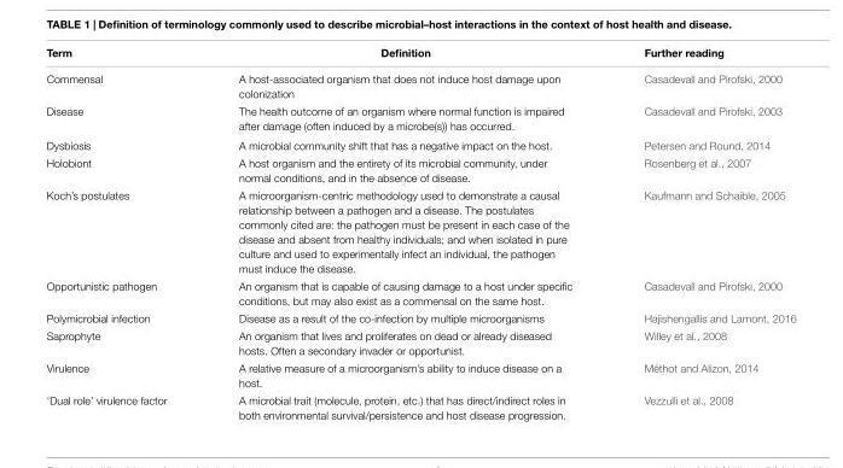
<table><thead><tr><td>Term</td><td>Definition</td><td>Further reading</td></tr></thead><tbody><tr><td>Commensal</td><td>A host-associated organism that does not induce host damage upon colonization</td><td>Casadevall and Pirofski, 2000</td></tr><tr><td>Disease</td><td>The health outcome of an organism where normal function is impaired after damage (often induced by a microbe(s)) has occurred.</td><td>Casadevall and Pirofski, 2003</td></tr><tr><td>Dysbiosis</td><td>A microbial community shift that has a negative impact on the host.</td><td>Petersen and Round, 2014</td></tr><tr><td>Holobiont</td><td>A host organism and the entirety of its microbial community, under normal conditions, and in the absence of disease.</td><td>Rosenberg et al., 2007</td></tr><tr><td>Koch’s postulates</td><td>A microorganism-centric methodology used to demonstrate a causal relationship between a pathogen and a disease. The postulates commonly cited are: the pathogen must be present in each case of the disease and absent from healthy individuals; and when isolated in pure culture and used to experimentally infect an individual, the pathogen must induce the disease.</td><td>Kaufmann and Schaible, 2005</td></tr><tr><td>Opportunistic pathogen</td><td>An organism that is capable of causing damage to a host under specific conditions, but may also exist as a commensal on the same host.</td><td>Casadevall and Pirofski, 2000</td></tr><tr><td>Polymicrobial infection</td><td>Disease as a result of the co-infection by multiple microorganisms</td><td>Hajishengallis and Lamont, 2016</td></tr><tr><td>Saprophyte</td><td>An organism that lives and proliferates on dead or already diseased hosts. Often a secondary invader or opportunist.</td><td>Willey et al., 2008</td></tr><tr><td>Virulence</td><td>A relative measure of a microorganism’s ability to induce disease on a host.</td><td>Méthot and Alizon, 2014</td></tr><tr><td>‘Dual role’ virulence factor</td><td>A microbial trait (molecule, protein, etc.) that has direct/indirect roles in both environmental survival/persistence and host disease progression.</td><td>Vezzulli et al., 2008</td></tr></tbody></table>